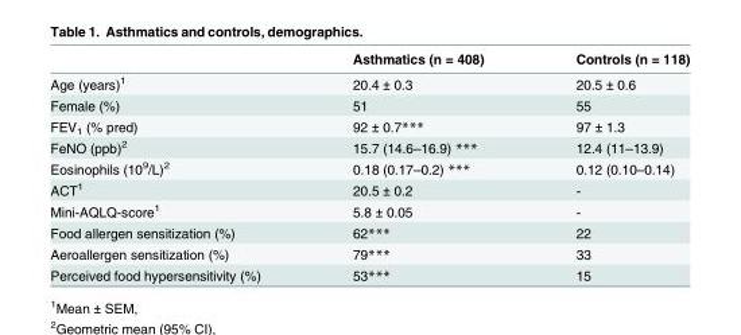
<table><thead><tr><td></td><td>Asthmatics (n = 408)</td><td>Controls (n = 118)</td></tr></thead><tbody><tr><td>Age (years)<sup>1</sup></td><td>20.4 ± 0.3</td><td>20.5 ± 0.6</td></tr><tr><td>Female (%)</td><td>51</td><td>55</td></tr><tr><td>FEV<sub>1</sub> (% pred)</td><td>92 ± 0.7***</td><td>97 ± 1.3</td></tr><tr><td>FeNO (ppb)<sup>2</sup></td><td>15.7 (14.6–16.9) ***</td><td>12.4 (11–13.9)</td></tr><tr><td>Eosinophils (10<sup>9</sup>/L)<sup>2</sup></td><td>0.18 (0.17–0.2) ***</td><td>0.12 (0.10–0.14)</td></tr><tr><td>ACT<sup>1</sup></td><td>20.5 ± 0.2</td><td>-</td></tr><tr><td>Mini-AQLQ-score<sup>1</sup></td><td>5.8 ± 0.05</td><td>-</td></tr><tr><td>Food allergen sensitization (%)</td><td>62***</td><td>22</td></tr><tr><td>Aeroallergen sensitization (%)</td><td>79***</td><td>33</td></tr><tr><td>Perceived food hypersensitivity (%)</td><td>53***</td><td>15</td></tr></tbody></table>